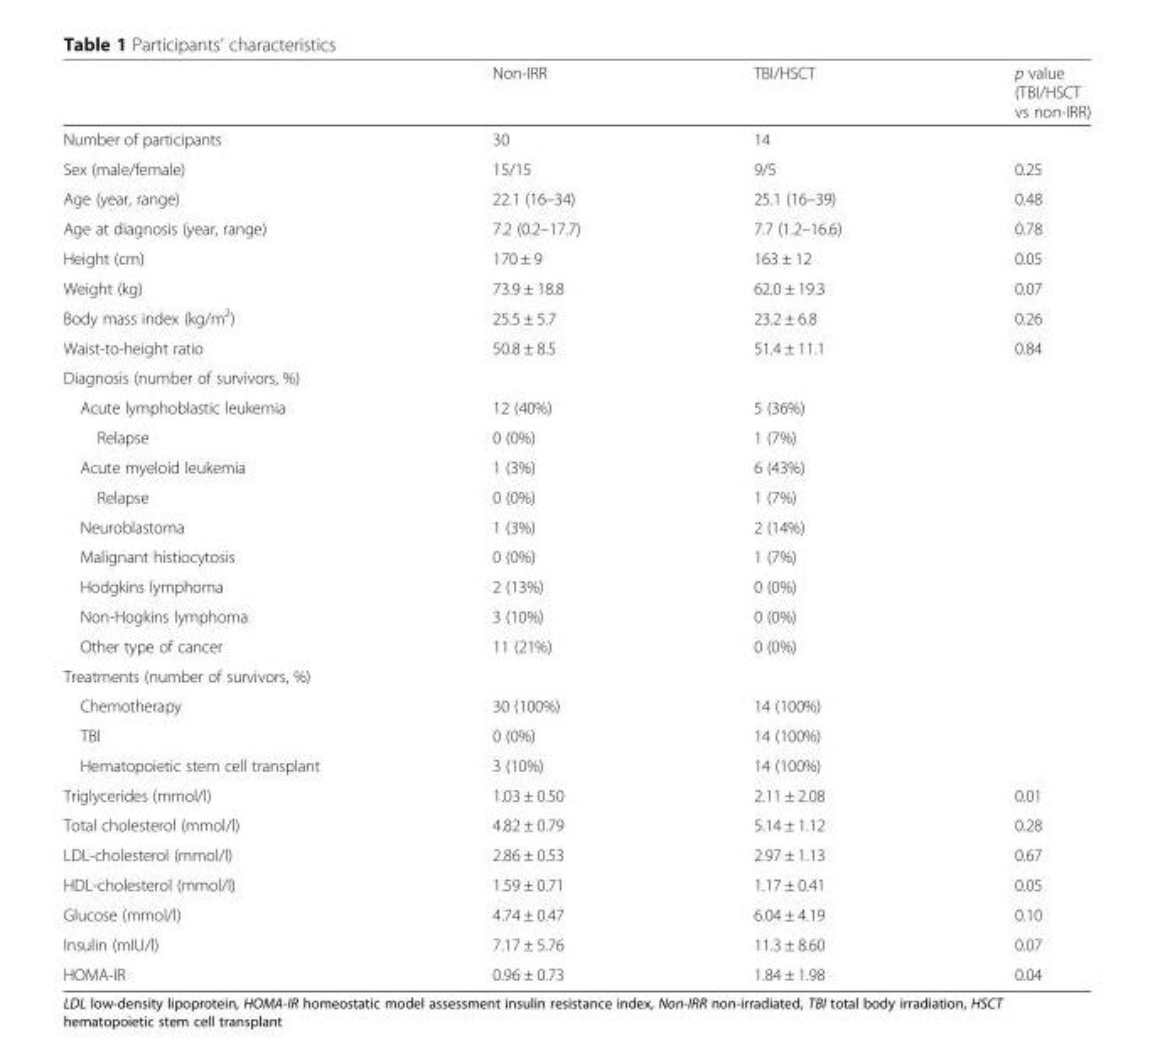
<table><thead><tr><td></td><td>Non-IRR</td><td>TBI/HSCT</td><td>p value (TBI/HSCT vs non-IRR)</td></tr></thead><tbody><tr><td>Number of participants</td><td>30</td><td>14</td><td></td></tr><tr><td>Sex (male/female)</td><td>15/15</td><td>9/5</td><td>0.25</td></tr><tr><td>Age (year, range)</td><td>22.1 (16–34)</td><td>25.1 (16–39)</td><td>0.48</td></tr><tr><td>Age at diagnosis (year, range)</td><td>7.2 (0.2–17.7)</td><td>7.7 (1.2–16.6)</td><td>0.78</td></tr><tr><td>Height (cm)</td><td>170 ± 9</td><td>163 ± 12</td><td>0.05</td></tr><tr><td>Weight (kg)</td><td>73.9 ± 18.8</td><td>62.0 ± 19.3</td><td>0.07</td></tr><tr><td>Body mass index (kg/m<sup>2</sup>)</td><td>25.5 ± 5.7</td><td>23.2 ± 6.8</td><td>0.26</td></tr><tr><td>Waist-to-height ratio</td><td>50.8 ± 8.5</td><td>51.4 ± 11.1</td><td>0.84</td></tr><tr><td colspan="4">Diagnosis (number of survivors, %)</td></tr><tr><td>Acute lymphoblastic leukemia</td><td>12 (40%)</td><td>5 (36%)</td><td></td></tr><tr><td>Relapse</td><td>0 (0%)</td><td>1 (7%)</td><td></td></tr><tr><td>Acute myeloid leukemia</td><td>1 (3%)</td><td>6 (43%)</td><td></td></tr><tr><td>Relapse</td><td>0 (0%)</td><td>1 (7%)</td><td></td></tr><tr><td>Neuroblastoma</td><td>1 (3%)</td><td>2 (14%)</td><td></td></tr><tr><td>Malignant histiocytosis</td><td>0 (0%)</td><td>1 (7%)</td><td></td></tr><tr><td>Hodgkins lymphoma</td><td>2 (13%)</td><td>0 (0%)</td><td></td></tr><tr><td>Non-Hogkins lymphoma</td><td>3 (10%)</td><td>0 (0%)</td><td></td></tr><tr><td>Other type of cancer</td><td>11 (21%)</td><td>0 (0%)</td><td></td></tr><tr><td colspan="4">Treatments (number of survivors, %)</td></tr><tr><td>Chemotherapy</td><td>30 (100%)</td><td>14 (100%)</td><td></td></tr><tr><td>TBI</td><td>0 (0%)</td><td>14 (100%)</td><td></td></tr><tr><td>Hematopoietic stem cell transplant</td><td>3 (10%)</td><td>14 (100%)</td><td></td></tr><tr><td>Triglycerides (mmol/l)</td><td>1.03 ± 0.50</td><td>2.11 ± 2.08</td><td>0.01</td></tr><tr><td>Total cholesterol (mmol/l)</td><td>4.82 ± 0.79</td><td>5.14 ± 1.12</td><td>0.28</td></tr><tr><td>LDL-cholesterol (mmol/l)</td><td>2.86 ± 0.53</td><td>2.97 ± 1.13</td><td>0.67</td></tr><tr><td>HDL-cholesterol (mmol/l)</td><td>1.59 ± 0.71</td><td>1.17 ± 0.41</td><td>0.05</td></tr><tr><td>Glucose (mmol/l)</td><td>4.74 ± 0.47</td><td>6.04 ± 4.19</td><td>0.10</td></tr><tr><td>Insulin (mIU/l)</td><td>7.17 ± 5.76</td><td>11.3 ± 8.60</td><td>0.07</td></tr><tr><td>HOMA-IR</td><td>0.96 ± 0.73</td><td>1.84 ± 1.98</td><td>0.04</td></tr></tbody></table>